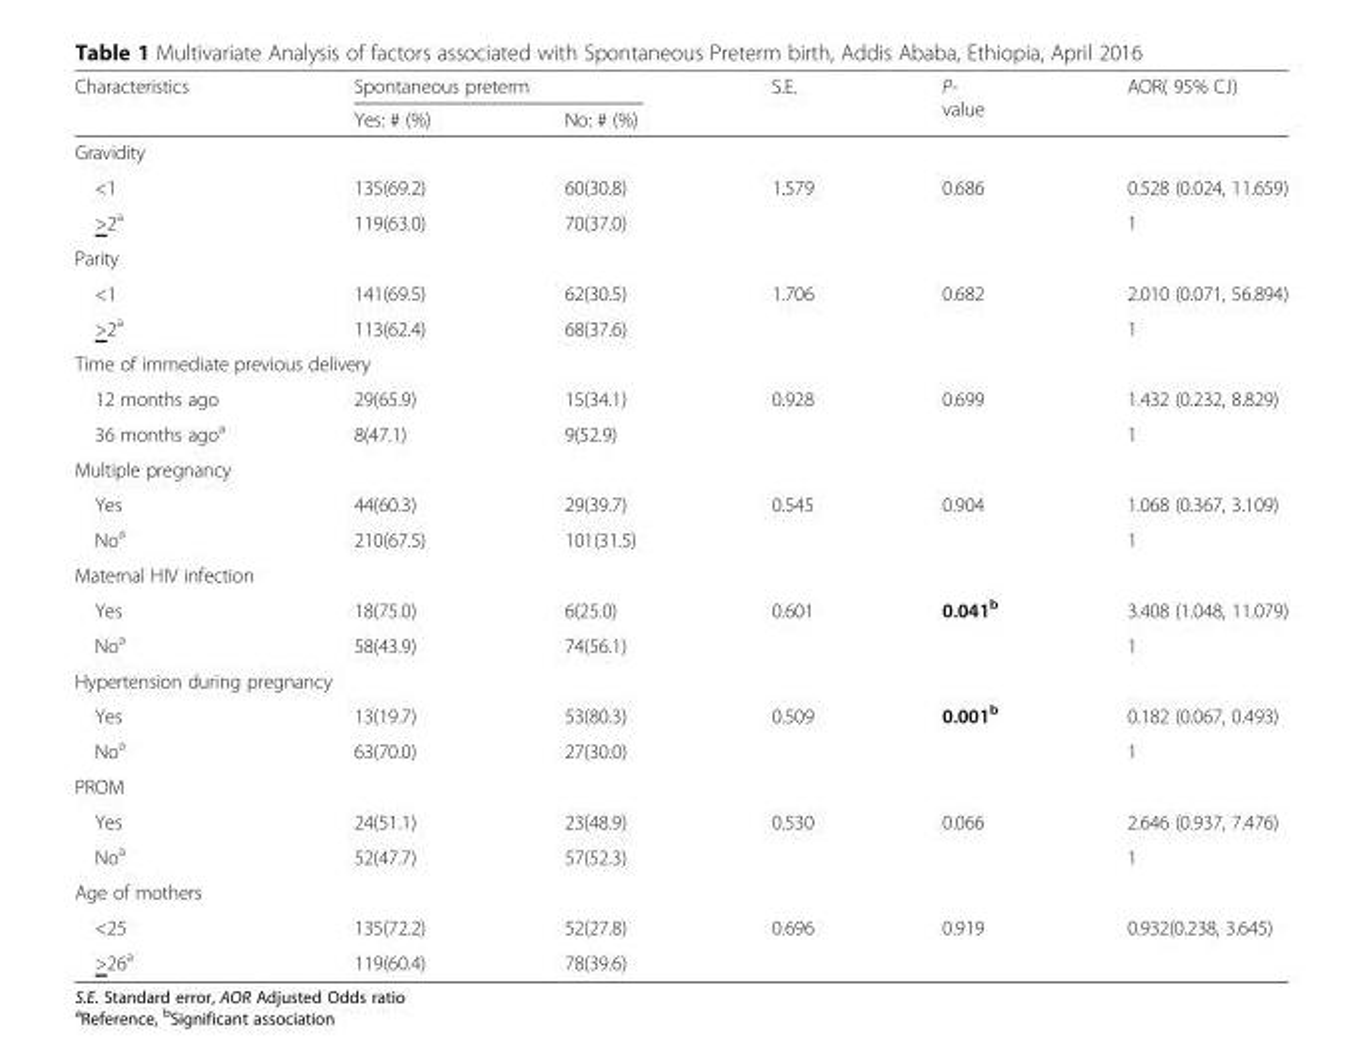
<table><thead><tr><td rowspan="2">Characteristics</td><td colspan="2">Spontaneous preterm</td><td rowspan="2">S.E.</td><td rowspan="2">P- value</td><td rowspan="2">AOR( 95% C.I)</td></tr><tr><td>Yes: # (%)</td><td>No: # (%)</td></tr></thead><tbody><tr><td colspan="6">Gravidity</td></tr><tr><td>&lt;1</td><td>135(69.2)</td><td>60(30.8)</td><td>1.579</td><td>0.686</td><td>0.528 (0.024, 11.659)</td></tr><tr><td>&gt;2<sup>a</sup></td><td>119(63.0)</td><td>70(37.0)</td><td></td><td></td><td>1</td></tr><tr><td colspan="6">Parity</td></tr><tr><td>&lt;1</td><td>141(69.5)</td><td>62(30.5)</td><td>1.706</td><td>0.682</td><td>2.010 (0.071, 56.894)</td></tr><tr><td>&gt;2<sup>a</sup></td><td>113(62.4)</td><td>68(37.6)</td><td></td><td></td><td>1</td></tr><tr><td colspan="6">Time of immediate previous delivery</td></tr><tr><td>12 months ago</td><td>29(65.9)</td><td>15(34.1)</td><td>0.928</td><td>0.699</td><td>1.432 (0.232, 8.829)</td></tr><tr><td>36 months ago<sup>a</sup></td><td>8(47.1)</td><td>9(52.9)</td><td></td><td></td><td>1</td></tr><tr><td colspan="6">Multiple pregnancy</td></tr><tr><td>Yes</td><td>44(60.3)</td><td>29(39.7)</td><td>0.545</td><td>0.904</td><td>1.068 (0.367, 3.109)</td></tr><tr><td>No<sup>a</sup></td><td>210(67.5)</td><td>101(31.5)</td><td></td><td></td><td>1</td></tr><tr><td colspan="6">Maternal HIV infection</td></tr><tr><td>Yes</td><td>18(75.0)</td><td>6(25.0)</td><td>0.601</td><td>0.041<sup>b</sup></td><td>3.408 (1.048, 11.079)</td></tr><tr><td>No<sup>a</sup></td><td>58(43.9)</td><td>74(56.1)</td><td></td><td></td><td>1</td></tr><tr><td colspan="6">Hypertension during pregnancy</td></tr><tr><td>Yes</td><td>13(19.7)</td><td>53(80.3)</td><td>0.509</td><td>0.001<sup>b</sup></td><td>0.182 (0.067, 0.493)</td></tr><tr><td>No<sup>a</sup></td><td>63(70.0)</td><td>27(30.0)</td><td></td><td></td><td>1</td></tr><tr><td colspan="6">PROM</td></tr><tr><td>Yes</td><td>24(51.1)</td><td>23(48.9)</td><td>0.530</td><td>0.066</td><td>2.646 (0.937, 7.476)</td></tr><tr><td>No<sup>a</sup></td><td>52(47.7)</td><td>57(52.3)</td><td></td><td></td><td>1</td></tr><tr><td colspan="6">Age of mothers</td></tr><tr><td>&lt;25</td><td>135(72.2)</td><td>52(27.8)</td><td>0.696</td><td>0.919</td><td>0.932(0.238, 3.645)</td></tr><tr><td>&gt;26<sup>a</sup></td><td>119(60.4)</td><td>78(39.6)</td><td></td><td></td><td></td></tr></tbody></table>